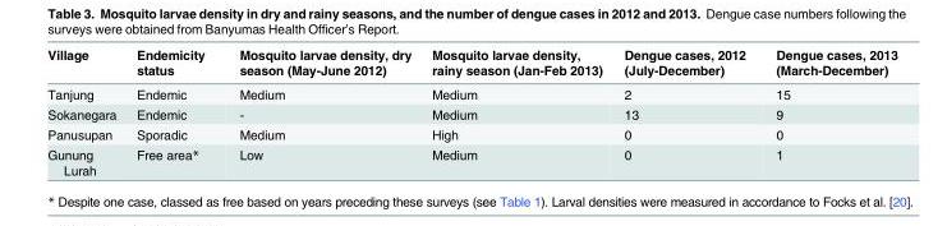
<table><thead><tr><td>Village</td><td>Endemicity status</td><td>Mosquito larvae density, dry season (May-June 2012)</td><td>Mosquito larvae density, rainy season (Jan-Feb 2013)</td><td>Dengue cases, 2012 (July-December)</td><td>Dengue cases, 2013 (March-December)</td></tr></thead><tbody><tr><td>Tanjung</td><td>Endemic</td><td>Medium</td><td>Medium</td><td>2</td><td>15</td></tr><tr><td>Sokanegara</td><td>Endemic</td><td>-</td><td>Medium</td><td>13</td><td>9</td></tr><tr><td>Panusupan</td><td>Sporadic</td><td>Medium</td><td>High</td><td>0</td><td>0</td></tr><tr><td>Gunung Lurah</td><td>Free area*</td><td>Low</td><td>Medium</td><td>0</td><td>1</td></tr></tbody></table>